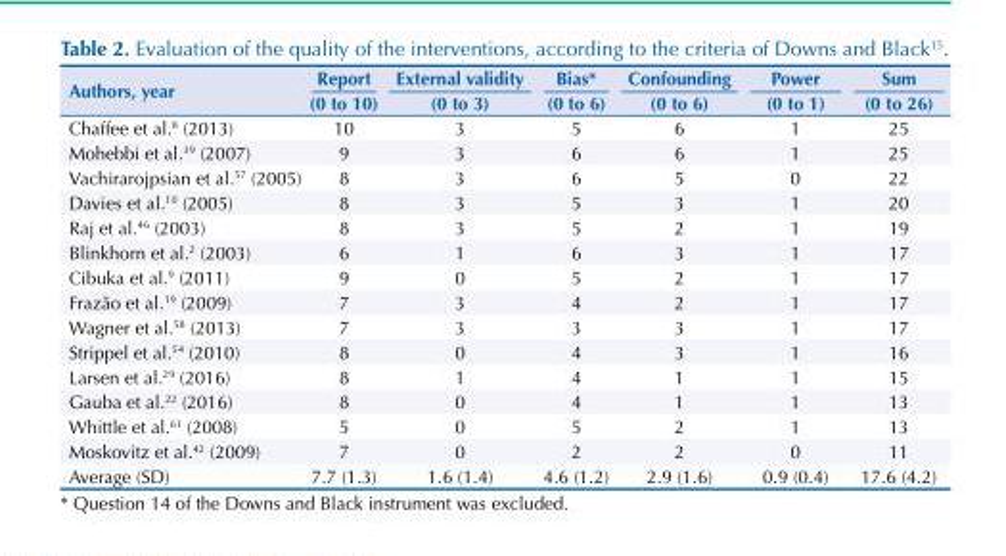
<table><thead><tr><td rowspan="2">Authors, year</td><td rowspan="2">Report (0 to 10)</td><td rowspan="2">External validity (0 to 3)</td><td rowspan="2">Bias* (0 to 6)</td><td rowspan="2">Confounding (0 to 6)</td><td rowspan="2">Power (0 to 1)</td><td rowspan="2">Sum (0 to 26)</td></tr><tr></tr></thead><tbody><tr><td>Chaffee et al.<sup>8</sup> (2013)</td><td>10</td><td>3</td><td>5</td><td>6</td><td>1</td><td>25</td></tr><tr><td>Mohebbi et al.<sup>39</sup> (2007)</td><td>9</td><td>3</td><td>6</td><td>6</td><td>1</td><td>25</td></tr><tr><td>Vachirarojpsian et al.<sup>57</sup> (2005)</td><td>8</td><td>3</td><td>6</td><td>5</td><td>0</td><td>22</td></tr><tr><td>Davies et al.<sup>10</sup> (2005)</td><td>8</td><td>3</td><td>5</td><td>3</td><td>1</td><td>20</td></tr><tr><td>Raj et al.<sup>46</sup> (2003)</td><td>8</td><td>3</td><td>5</td><td>2</td><td>1</td><td>19</td></tr><tr><td>Blinkhorn et al.<sup>2</sup> (2003)</td><td>6</td><td>1</td><td>6</td><td>3</td><td>1</td><td>17</td></tr><tr><td>Cibuka et al.<sup>9</sup> (2011)</td><td>9</td><td>0</td><td>5</td><td>2</td><td>1</td><td>17</td></tr><tr><td>Frazão et al.<sup>19</sup> (2009)</td><td>7</td><td>3</td><td>4</td><td>2</td><td>1</td><td>17</td></tr><tr><td>Wagner et al.<sup>58</sup> (2013)</td><td>7</td><td>3</td><td>3</td><td>3</td><td>1</td><td>17</td></tr><tr><td>Strippel et al.<sup>54</sup> (2010)</td><td>8</td><td>0</td><td>4</td><td>3</td><td>1</td><td>16</td></tr><tr><td>Larsen et al.<sup>29</sup> (2016)</td><td>8</td><td>1</td><td>4</td><td>1</td><td>1</td><td>15</td></tr><tr><td>Gauba et al.<sup>22</sup> (2016)</td><td>8</td><td>0</td><td>4</td><td>1</td><td>1</td><td>13</td></tr><tr><td>Whittle et al.<sup>61</sup> (2008)</td><td>5</td><td>0</td><td>5</td><td>2</td><td>1</td><td>13</td></tr><tr><td>Moskovitz et al.<sup>42</sup> (2009)</td><td>7</td><td>0</td><td>2</td><td>2</td><td>0</td><td>11</td></tr><tr><td>Average (SD)</td><td>7.7 (1.3)</td><td>1.6 (1.4)</td><td>4.6 (1.2)</td><td>2.9 (1.6)</td><td>0.9 (0.4)</td><td>17.6 (4.2)</td></tr></tbody></table>